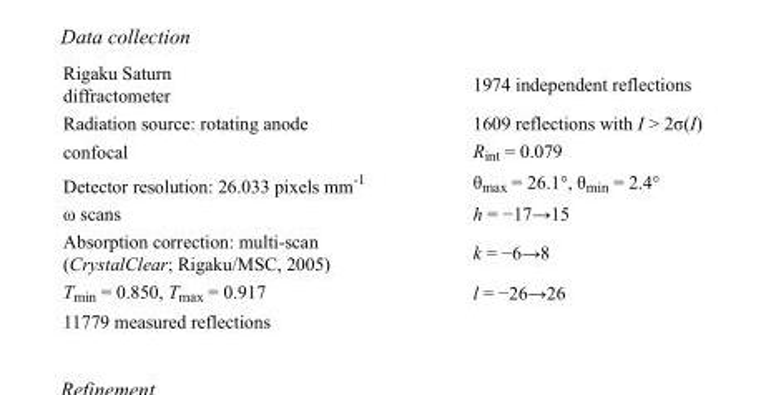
<table><tbody><tr><td>Rigaku Saturn diffractometer</td><td>1974 independent reflections</td></tr><tr><td>Radiation source: rotating anode</td><td>1609 reflections with I &gt; 2σ(I)</td></tr><tr><td>confocal</td><td>R<sub>int</sub> = 0.079</td></tr><tr><td>Detector resolution: 26.033 pixels mm<sup>-1</sup></td><td>θ<sub>max</sub> = 26.1°, θ<sub>min</sub> = 2.4°</td></tr><tr><td>ω scans</td><td>h = −17→15</td></tr><tr><td>Absorption correction: multi-scan (CrystalClear; Rigaku/MSC, 2005)</td><td>k = −6→8</td></tr><tr><td>T<sub>min</sub> = 0.850, T<sub>max</sub> = 0.917</td><td>l = −26→26</td></tr><tr><td>11779 measured reflections</td><td></td></tr></tbody></table>